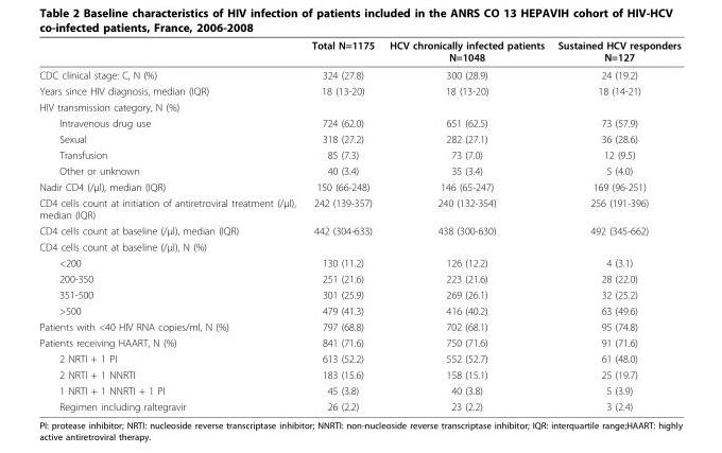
<table><thead><tr><td></td><td>Total N=1175</td><td>HCV chronically infected patients N=1048</td><td>Sustained HCV responders N=127</td></tr></thead><tbody><tr><td>CDC clinical stage: C, N (%)</td><td>324 (27.8)</td><td>300 (28.9)</td><td>24 (19.2)</td></tr><tr><td>Years since HIV diagnosis, median (IQR)</td><td>18 (13-20)</td><td>18 (13-20)</td><td>18 (14-21)</td></tr><tr><td colspan="4">HIV transmission category, N (%)</td></tr><tr><td>Intravenous drug use</td><td>724 (62.0)</td><td>651 (62.5)</td><td>73 (57.9)</td></tr><tr><td>Sexual</td><td>318 (27.2)</td><td>282 (27.1)</td><td>36 (28.6)</td></tr><tr><td>Transfusion</td><td>85 (7.3)</td><td>73 (7.0)</td><td>12 (9.5)</td></tr><tr><td>Other or unknown</td><td>40 (3.4)</td><td>35 (3.4)</td><td>5 (4.0)</td></tr><tr><td>Nadir CD4 (/μl), median (IQR)</td><td>150 (66-248)</td><td>146 (65-247)</td><td>169 (96-251)</td></tr><tr><td>CD4 cells count at initiation of antiretroviral treatment (/μl), median (IQR)</td><td>242 (139-357)</td><td>240 (132-354)</td><td>256 (191-396)</td></tr><tr><td>CD4 cells count at baseline (/μl), median (IQR)</td><td>442 (304-633)</td><td>438 (300-630)</td><td>492 (345-662)</td></tr><tr><td colspan="4">CD4 cells count at baseline (/μl), N (%)</td></tr><tr><td>&lt;200</td><td>130 (11.2)</td><td>126 (12.2)</td><td>4 (3.1)</td></tr><tr><td>200-350</td><td>251 (21.6)</td><td>223 (21.6)</td><td>28 (22.0)</td></tr><tr><td>351-500</td><td>301 (25.9)</td><td>269 (26.1)</td><td>32 (25.2)</td></tr><tr><td>&gt;500</td><td>479 (41.3)</td><td>416 (40.2)</td><td>63 (49.6)</td></tr><tr><td>Patients with &lt;40 HIV RNA copies/ml, N (%)</td><td>797 (68.8)</td><td>702 (68.1)</td><td>95 (74.8)</td></tr><tr><td>Patients receiving HAART, N (%)</td><td>841 (71.6)</td><td>750 (71.6)</td><td>91 (71.6)</td></tr><tr><td>2 NRTI + 1 PI</td><td>613 (52.2)</td><td>552 (52.7)</td><td>61 (48.0)</td></tr><tr><td>2 NRTI + 1 NNRTI</td><td>183 (15.6)</td><td>158 (15.1)</td><td>25 (19.7)</td></tr><tr><td>1 NRTI + 1 NNRTI + 1 PI</td><td>45 (3.8)</td><td>40 (3.8)</td><td>5 (3.9)</td></tr><tr><td>Regimen including raltegravir</td><td>26 (2.2)</td><td>23 (2.2)</td><td>3 (2.4)</td></tr></tbody></table>